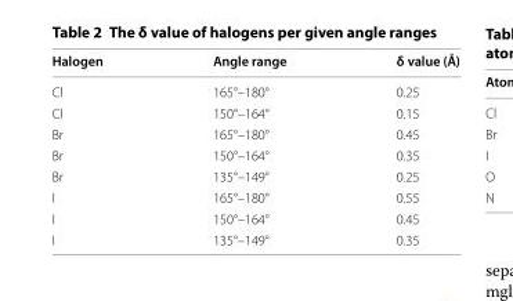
<table><thead><tr><td>Halogen</td><td>Angle range</td><td>δ value (Å)</td></tr></thead><tbody><tr><td>Cl</td><td>165°–180°</td><td>0.25</td></tr><tr><td>Cl</td><td>150°–164°</td><td>0.15</td></tr><tr><td>Br</td><td>165°–180°</td><td>0.45</td></tr><tr><td>Br</td><td>150°–164°</td><td>0.35</td></tr><tr><td>Br</td><td>135°–149°</td><td>0.25</td></tr><tr><td>I</td><td>165°–180°</td><td>0.55</td></tr><tr><td>I</td><td>150°–164°</td><td>0.45</td></tr><tr><td>I</td><td>135°–149°</td><td>0.35</td></tr></tbody></table>